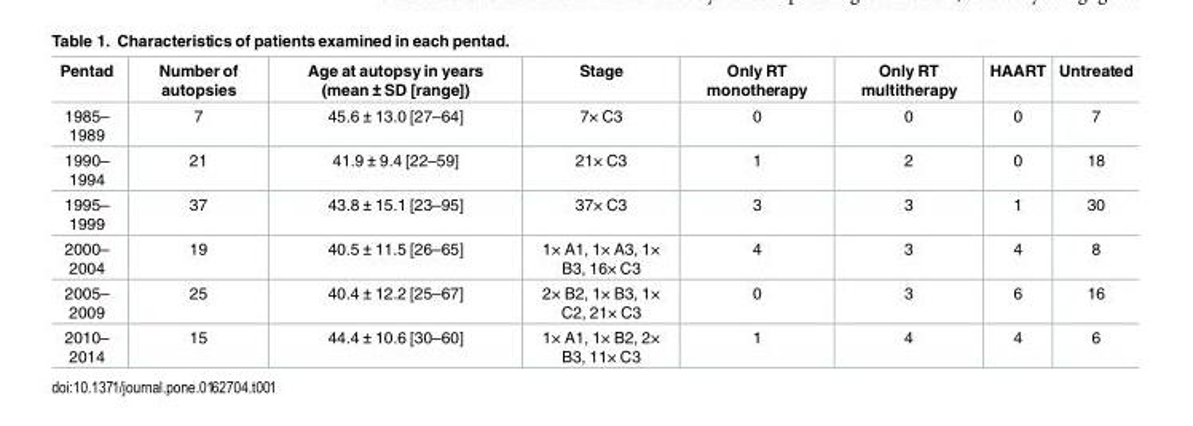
<table><thead><tr><td>Pentad</td><td>Number of autopsies</td><td>Age at autopsy in years (mean ± SD [range])</td><td>Stage</td><td>Only RT monotherapy</td><td>Only RT multitherapy</td><td>HAART</td><td>Untreated</td></tr></thead><tbody><tr><td>1985– 1989</td><td>7</td><td>45.6 ± 13.0 [27–64]</td><td>7× C3</td><td>0</td><td>0</td><td>0</td><td>7</td></tr><tr><td>1990– 1994</td><td>21</td><td>41.9 ± 9.4 [22–59]</td><td>21× C3</td><td>1</td><td>2</td><td>0</td><td>18</td></tr><tr><td>1995– 1999</td><td>37</td><td>43.8 ± 15.1 [23–95]</td><td>37× C3</td><td>3</td><td>3</td><td>1</td><td>30</td></tr><tr><td>2000– 2004</td><td>19</td><td>40.5 ± 11.5 [26–65]</td><td>1× A1, 1× A3, 1× B3, 16× C3</td><td>4</td><td>3</td><td>4</td><td>8</td></tr><tr><td>2005– 2009</td><td>25</td><td>40.4 ± 12.2 [25–67]</td><td>2× B2, 1× B3, 1× C2, 21× C3</td><td>0</td><td>3</td><td>6</td><td>16</td></tr><tr><td>2010– 2014</td><td>15</td><td>44.4 ± 10.6 [30–60]</td><td>1× A1, 1× B2, 2× B3, 11× C3</td><td>1</td><td>4</td><td>4</td><td>6</td></tr></tbody></table>